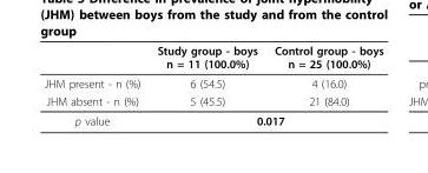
<table><thead><tr><td></td><td>Study group - boys n = 11 (100.0%)</td><td>Control group - boys n = 25 (100.0%)</td></tr></thead><tbody><tr><td>JHM present - n (%)</td><td>6 (54.5)</td><td>4 (16.0)</td></tr><tr><td>JHM absent - n (%)</td><td>5 (45.5)</td><td>21 (84.0)</td></tr><tr><td>p value</td><td colspan="2">0.017</td></tr></tbody></table>